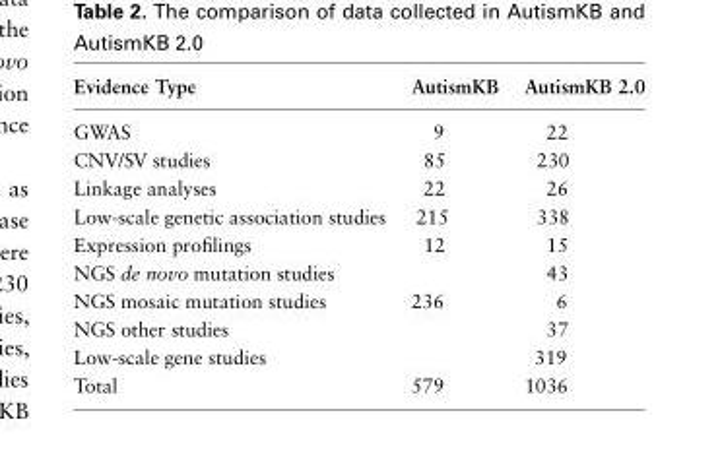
<table><thead><tr><td>Evidence Type</td><td>AutismKB</td><td>AutismKB 2.0</td></tr></thead><tbody><tr><td>GWAS</td><td>9</td><td>22</td></tr><tr><td>CNV/SV studies</td><td>85</td><td>230</td></tr><tr><td>Linkage analyses</td><td>22</td><td>26</td></tr><tr><td>Low-scale genetic association studies</td><td>215</td><td>338</td></tr><tr><td>Expression profilings</td><td>12</td><td>15</td></tr><tr><td>NGS de novo mutation studies</td><td></td><td>43</td></tr><tr><td>NGS mosaic mutation studies</td><td>236</td><td>6</td></tr><tr><td>NGS other studies</td><td></td><td>37</td></tr><tr><td>Low-scale gene studies</td><td></td><td>319</td></tr><tr><td>Total</td><td>579</td><td>1036</td></tr></tbody></table>